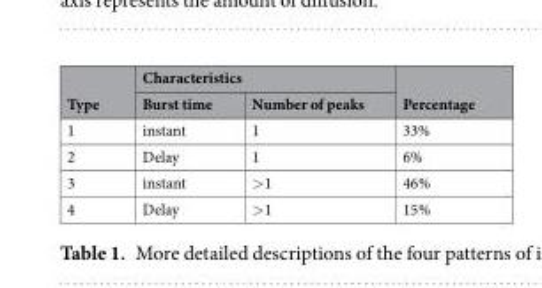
<table><thead><tr><td rowspan="2">Type</td><td colspan="2">Characteristics</td><td rowspan="2">Percentage</td></tr><tr><td>Burst time</td><td>Number of peaks</td></tr></thead><tbody><tr><td>1</td><td>instant</td><td>1</td><td>33%</td></tr><tr><td>2</td><td>Delay</td><td>1</td><td>6%</td></tr><tr><td>3</td><td>instant</td><td>&gt;1</td><td>46%</td></tr><tr><td>4</td><td>Delay</td><td>&gt;1</td><td>15%</td></tr></tbody></table>